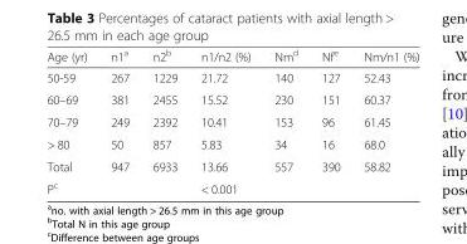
<table><thead><tr><td>Age (yr)</td><td>n1<sup>a</sup></td><td>n2<sup>b</sup></td><td>n1/n2 (%)</td><td>Nm<sup>d</sup></td><td>Nf<sup>e</sup></td><td>Nm/n1 (%)</td></tr></thead><tbody><tr><td>50-59</td><td>267</td><td>1229</td><td>21.72</td><td>140</td><td>127</td><td>52.43</td></tr><tr><td>60–69</td><td>381</td><td>2455</td><td>15.52</td><td>230</td><td>151</td><td>60.37</td></tr><tr><td>70–79</td><td>249</td><td>2392</td><td>10.41</td><td>153</td><td>96</td><td>61.45</td></tr><tr><td>&gt; 80</td><td>50</td><td>857</td><td>5.83</td><td>34</td><td>16</td><td>68.0</td></tr><tr><td>Total</td><td>947</td><td>6933</td><td>13.66</td><td>557</td><td>390</td><td>58.82</td></tr><tr><td>P<sup>c</sup></td><td></td><td></td><td>&lt; 0.001</td><td></td><td></td><td></td></tr></tbody></table>